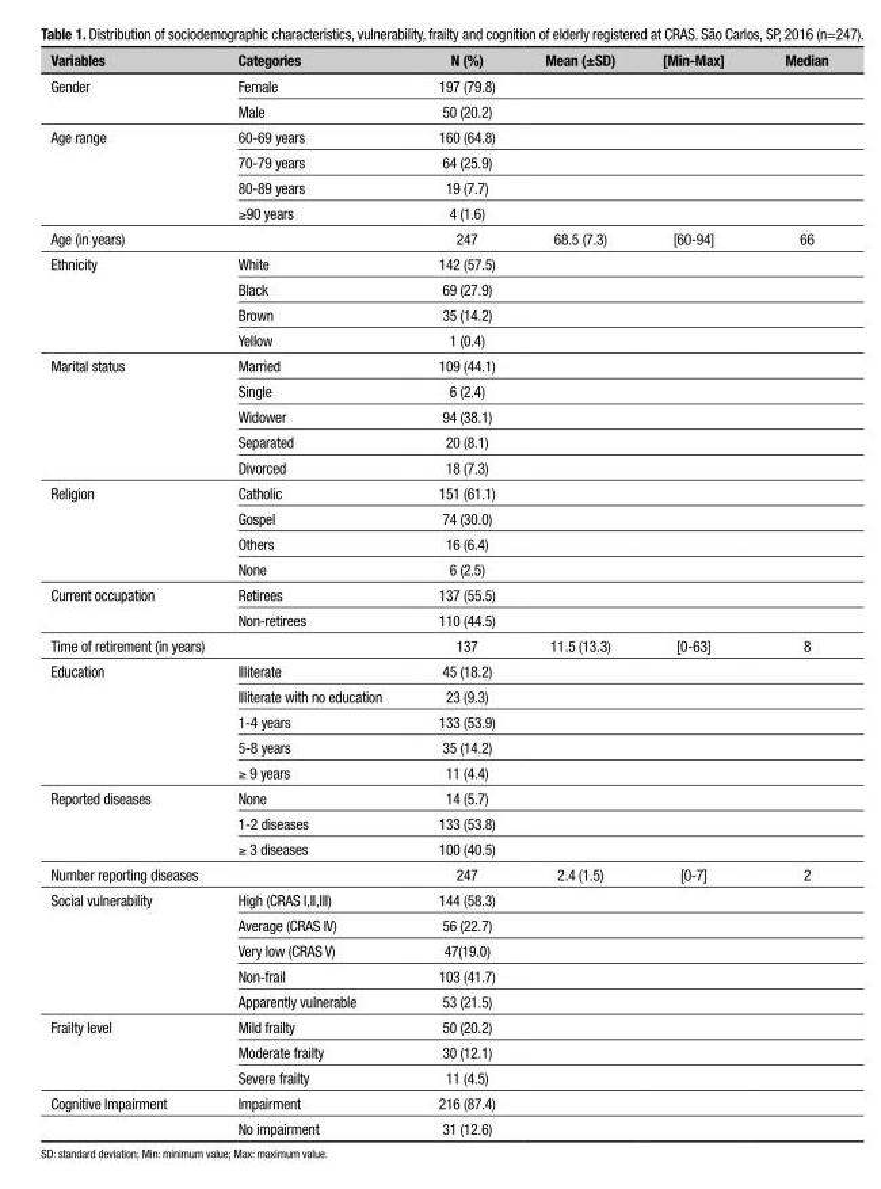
<table><thead><tr><td>Variables</td><td>Categories</td><td>N (%)</td><td>Mean (±SD)</td><td>[Min-Max]</td><td>Median</td></tr></thead><tbody><tr><td rowspan="2">Gender</td><td>Female</td><td>197 (79.8)</td><td></td><td></td><td></td></tr><tr><td>Male</td><td>50 (20.2)</td><td></td><td></td><td></td></tr><tr><td rowspan="4">Age range</td><td>60-69 years</td><td>160 (64.8)</td><td></td><td></td><td></td></tr><tr><td>70-79 years</td><td>64 (25.9)</td><td></td><td></td><td></td></tr><tr><td>80-89 years</td><td>19 (7.7)</td><td></td><td></td><td></td></tr><tr><td>≥90 years</td><td>4 (1.6)</td><td></td><td></td><td></td></tr><tr><td>Age (in years)</td><td></td><td>247</td><td>68.5 (7.3)</td><td>[60-94]</td><td>66</td></tr><tr><td rowspan="4">Ethnicity</td><td>White</td><td>142 (57.5)</td><td></td><td></td><td></td></tr><tr><td>Black</td><td>69 (27.9)</td><td></td><td></td><td></td></tr><tr><td>Brown</td><td>35 (14.2)</td><td></td><td></td><td></td></tr><tr><td>Yellow</td><td>1 (0.4)</td><td></td><td></td><td></td></tr><tr><td rowspan="5">Marital status</td><td>Married</td><td>109 (44.1)</td><td></td><td></td><td></td></tr><tr><td>Single</td><td>6 (2.4)</td><td></td><td></td><td></td></tr><tr><td>Widower</td><td>94 (38.1)</td><td></td><td></td><td></td></tr><tr><td>Separated</td><td>20 (8.1)</td><td></td><td></td><td></td></tr><tr><td>Divorced</td><td>18 (7.3)</td><td></td><td></td><td></td></tr><tr><td rowspan="4">Religion</td><td>Catholic</td><td>151 (61.1)</td><td></td><td></td><td></td></tr><tr><td>Gospel</td><td>74 (30.0)</td><td></td><td></td><td></td></tr><tr><td>Others</td><td>16 (6.4)</td><td></td><td></td><td></td></tr><tr><td>None</td><td>6 (2.5)</td><td></td><td></td><td></td></tr><tr><td rowspan="2">Current occupation</td><td>Retirees</td><td>137 (55.5)</td><td></td><td></td><td></td></tr><tr><td>Non-retirees</td><td>110 (44.5)</td><td></td><td></td><td></td></tr><tr><td>Time of retirement (in years)</td><td></td><td>137</td><td>11.5 (13.3)</td><td>[0-63]</td><td>8</td></tr><tr><td rowspan="5">Education</td><td>Illiterate</td><td>45 (18.2)</td><td></td><td></td><td></td></tr><tr><td>Illiterate with no education</td><td>23 (9.3)</td><td></td><td></td><td></td></tr><tr><td>1-4 years</td><td>133 (53.9)</td><td></td><td></td><td></td></tr><tr><td>5-8 years</td><td>35 (14.2)</td><td></td><td></td><td></td></tr><tr><td>≥ 9 years</td><td>11 (4.4)</td><td></td><td></td><td></td></tr><tr><td rowspan="3">Reported diseases</td><td>None</td><td>14 (5.7)</td><td></td><td></td><td></td></tr><tr><td>1-2 diseases</td><td>133 (53.8)</td><td></td><td></td><td></td></tr><tr><td>≥ 3 diseases</td><td>100 (40.5)</td><td></td><td></td><td></td></tr><tr><td>Number reporting diseases</td><td></td><td>247</td><td>2.4 (1.5)</td><td>[0-7]</td><td>2</td></tr><tr><td rowspan="5">Social vulnerability</td><td>High (CRAS I,II,III)</td><td>144 (58.3)</td><td></td><td></td><td></td></tr><tr><td>Average (CRAS IV)</td><td>56 (22.7)</td><td></td><td></td><td></td></tr><tr><td>Very low (CRAS V)</td><td>47(19.0)</td><td></td><td></td><td></td></tr><tr><td>Non-frail</td><td>103 (41.7)</td><td></td><td></td><td></td></tr><tr><td>Apparently vulnerable</td><td>53 (21.5)</td><td></td><td></td><td></td></tr><tr><td rowspan="3">Frailty level</td><td>Mild frailty</td><td>50 (20.2)</td><td></td><td></td><td></td></tr><tr><td>Moderate frailty</td><td>30 (12.1)</td><td></td><td></td><td></td></tr><tr><td>Severe frailty</td><td>11 (4.5)</td><td></td><td></td><td></td></tr><tr><td rowspan="2">Cognitive Impairment</td><td>Impairment</td><td>216 (87.4)</td><td></td><td></td><td></td></tr><tr><td>No impairment</td><td>31 (12.6)</td><td></td><td></td><td></td></tr></tbody></table>